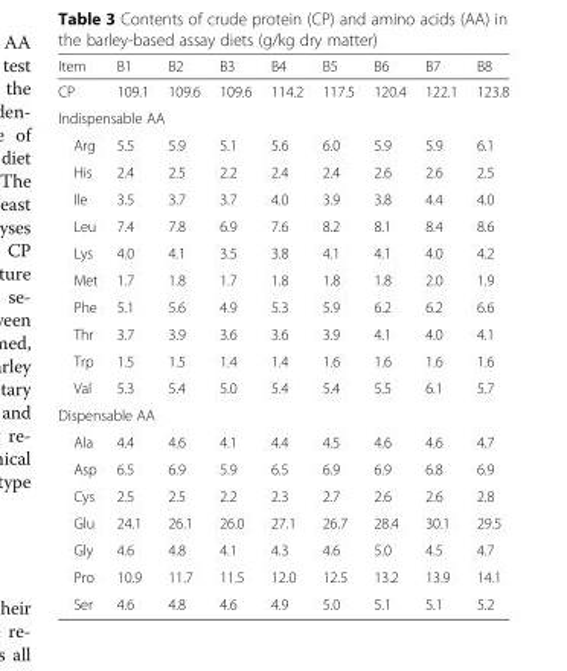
<table><thead><tr><td>Item</td><td>B1</td><td>B2</td><td>B3</td><td>B4</td><td>B5</td><td>B6</td><td>B7</td><td>B8</td></tr></thead><tbody><tr><td>CP</td><td>109.1</td><td>109.6</td><td>109.6</td><td>114.2</td><td>117.5</td><td>120.4</td><td>122.1</td><td>123.8</td></tr><tr><td colspan="9">Indispensable AA</td></tr><tr><td>Arg</td><td>5.5</td><td>5.9</td><td>5.1</td><td>5.6</td><td>6.0</td><td>5.9</td><td>5.9</td><td>6.1</td></tr><tr><td>His</td><td>2.4</td><td>2.5</td><td>2.2</td><td>2.4</td><td>2.4</td><td>2.6</td><td>2.6</td><td>2.5</td></tr><tr><td>Ile</td><td>3.5</td><td>3.7</td><td>3.7</td><td>4.0</td><td>3.9</td><td>3.8</td><td>4.4</td><td>4.0</td></tr><tr><td>Leu</td><td>7.4</td><td>7.8</td><td>6.9</td><td>7.6</td><td>8.2</td><td>8.1</td><td>8.4</td><td>8.6</td></tr><tr><td>Lys</td><td>4.0</td><td>4.1</td><td>3.5</td><td>3.8</td><td>4.1</td><td>4.1</td><td>4.0</td><td>4.2</td></tr><tr><td>Met</td><td>1.7</td><td>1.8</td><td>1.7</td><td>1.8</td><td>1.8</td><td>1.8</td><td>2.0</td><td>1.9</td></tr><tr><td>Phe</td><td>5.1</td><td>5.6</td><td>4.9</td><td>5.3</td><td>5.9</td><td>6.2</td><td>6.2</td><td>6.6</td></tr><tr><td>Thr</td><td>3.7</td><td>3.9</td><td>3.6</td><td>3.6</td><td>3.9</td><td>4.1</td><td>4.0</td><td>4.1</td></tr><tr><td>Trp</td><td>1.5</td><td>1.5</td><td>1.4</td><td>1.4</td><td>1.6</td><td>1.6</td><td>1.6</td><td>1.6</td></tr><tr><td>Val</td><td>5.3</td><td>5.4</td><td>5.0</td><td>5.4</td><td>5.4</td><td>5.5</td><td>6.1</td><td>5.7</td></tr><tr><td colspan="9">Dispensable AA</td></tr><tr><td>Ala</td><td>4.4</td><td>4.6</td><td>4.1</td><td>4.4</td><td>4.5</td><td>4.6</td><td>4.6</td><td>4.7</td></tr><tr><td>Asp</td><td>6.5</td><td>6.9</td><td>5.9</td><td>6.5</td><td>6.9</td><td>6.9</td><td>6.8</td><td>6.9</td></tr><tr><td>Cys</td><td>2.5</td><td>2.5</td><td>2.2</td><td>2.3</td><td>2.7</td><td>2.6</td><td>2.6</td><td>2.8</td></tr><tr><td>Glu</td><td>24.1</td><td>26.1</td><td>26.0</td><td>27.1</td><td>26.7</td><td>28.4</td><td>30.1</td><td>29.5</td></tr><tr><td>Gly</td><td>4.6</td><td>4.8</td><td>4.1</td><td>4.3</td><td>4.6</td><td>5.0</td><td>4.5</td><td>4.7</td></tr><tr><td>Pro</td><td>10.9</td><td>11.7</td><td>11.5</td><td>12.0</td><td>12.5</td><td>13.2</td><td>13.9</td><td>14.1</td></tr><tr><td>Ser</td><td>4.6</td><td>4.8</td><td>4.6</td><td>4.9</td><td>5.0</td><td>5.1</td><td>5.1</td><td>5.2</td></tr></tbody></table>